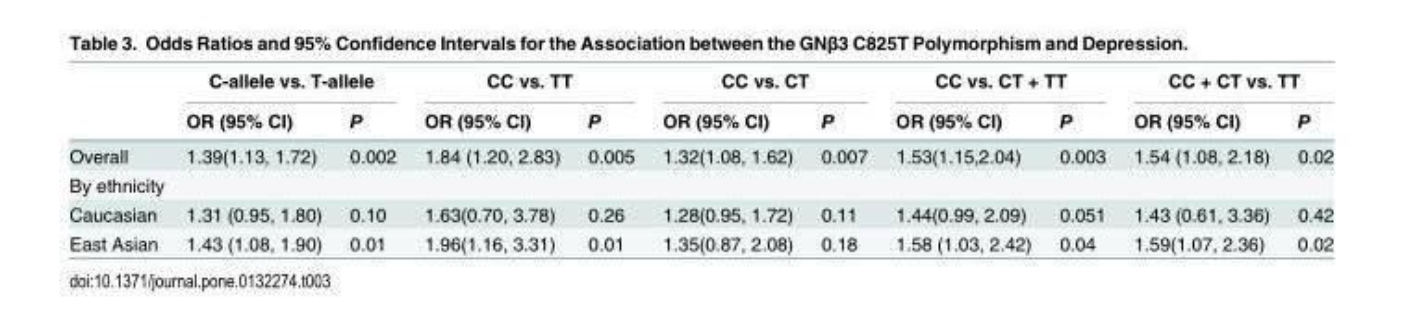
<table><thead><tr><td rowspan="2"></td><td colspan="2">C-allele vs. T-allele</td><td colspan="2">CC vs. TT</td><td colspan="2">CC vs. CT</td><td colspan="2">CC vs. CT + TT</td><td colspan="2">CC + CT vs. TT</td></tr><tr><td>OR (95% CI)</td><td>P</td><td>OR (95% CI)</td><td>P</td><td>OR (95% CI)</td><td>P</td><td>OR (95% CI)</td><td>P</td><td>OR (95% CI)</td><td>P</td></tr></thead><tbody><tr><td>Overall</td><td>1.39(1.13, 1.72)</td><td>0.002</td><td>1.84 (1.20, 2.83)</td><td>0.005</td><td>1.32(1.08, 1.62)</td><td>0.007</td><td>1.53(1.15,2.04)</td><td>0.003</td><td>1.54 (1.08, 2.18)</td><td>0.02</td></tr><tr><td colspan="11">By ethnicity</td></tr><tr><td>Caucasian</td><td>1.31 (0.95, 1.80)</td><td>0.10</td><td>1.63(0.70, 3.78)</td><td>0.26</td><td>1.28(0.95, 1.72)</td><td>0.11</td><td>1.44(0.99, 2.09)</td><td>0.051</td><td>1.43 (0.61, 3.36)</td><td>0.42</td></tr><tr><td>East Asian</td><td>1.43 (1.08, 1.90)</td><td>0.01</td><td>1.96(1.16, 3.31)</td><td>0.01</td><td>1.35(0.87, 2.08)</td><td>0.18</td><td>1.58 (1.03, 2.42)</td><td>0.04</td><td>1.59(1.07, 2.36)</td><td>0.02</td></tr></tbody></table>